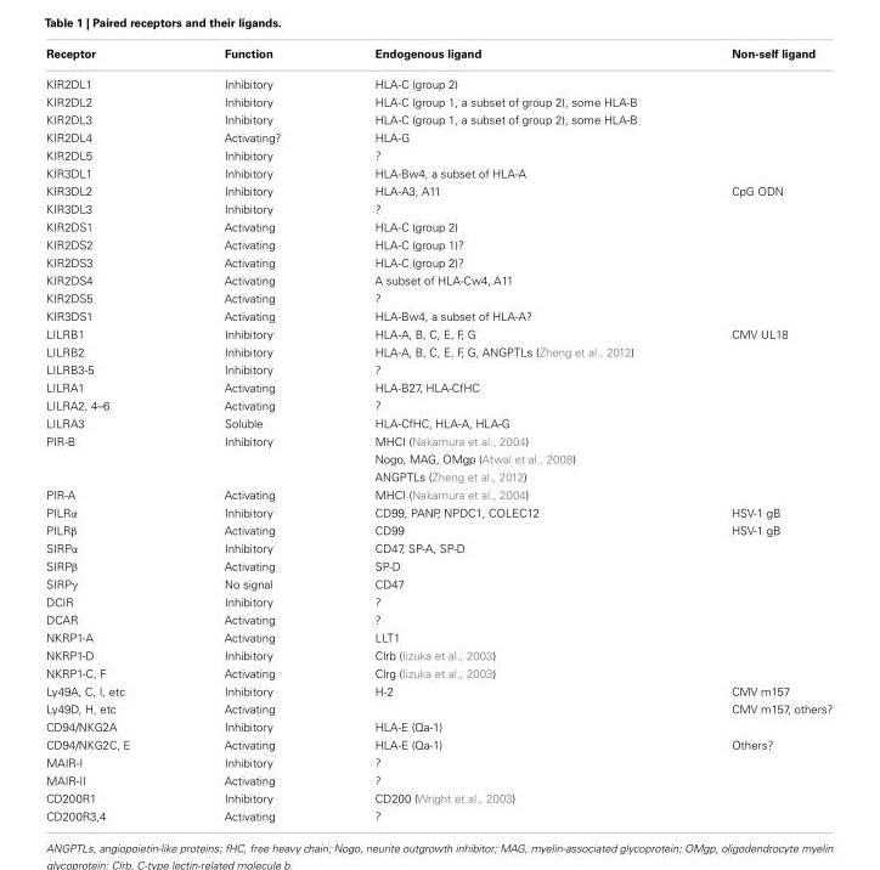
<table><thead><tr><td>Receptor</td><td>Function</td><td>Endogenous ligand</td><td>Non-self ligand</td></tr></thead><tbody><tr><td>KIR2DL1</td><td>Inhibitory</td><td>HLA-C (group 2)</td><td></td></tr><tr><td>KIR2DL2</td><td>Inhibitory</td><td>HLA-C (group 1, a subset of group 2), some HLA-B</td><td></td></tr><tr><td>KIR2DL3</td><td>Inhibitory</td><td>HLA-C (group 1, a subset of group 2), some HLA-B</td><td></td></tr><tr><td>KIR2DL4</td><td>Activating?</td><td>HLA-G</td><td></td></tr><tr><td>KIR2DL5</td><td>Inhibitory</td><td>?</td><td></td></tr><tr><td>KIR3DL1</td><td>Inhibitory</td><td>HLA-Bw4, a subset of HLA-A</td><td></td></tr><tr><td>KIR3DL2</td><td>Inhibitory</td><td>HLA-A3, A11</td><td>CpG ODN</td></tr><tr><td>KIR3DL3</td><td>Inhibitory</td><td>?</td><td></td></tr><tr><td>KIR2DS1</td><td>Activating</td><td>HLA-C (group 2)</td><td></td></tr><tr><td>KIR2DS2</td><td>Activating</td><td>HLA-C (group 1)?</td><td></td></tr><tr><td>KIR2DS3</td><td>Activating</td><td>HLA-C (group 2)?</td><td></td></tr><tr><td>KIR2DS4</td><td>Activating</td><td>A subset of HLA-Cw4, A11</td><td></td></tr><tr><td>KIR2DS5</td><td>Activating</td><td>?</td><td></td></tr><tr><td>KIR3DS1</td><td>Activating</td><td>HLA-Bw4, a subset of HLA-A?</td><td></td></tr><tr><td>LILRB1</td><td>Inhibitory</td><td>HLA-A, B, C, E, F, G</td><td>CMV UL18</td></tr><tr><td>LILRB2</td><td>Inhibitory</td><td>HLA-A, B, C, E, F, G, ANGPTLs (Zheng et al., 2012)</td><td></td></tr><tr><td>LILRB3-5</td><td>Inhibitory</td><td>?</td><td></td></tr><tr><td>LILRA1</td><td>Activating</td><td>HLA-B27, HLA-CfHC</td><td></td></tr><tr><td>LILRA2, 4–6</td><td>Activating</td><td>?</td><td></td></tr><tr><td>LILRA3</td><td>Soluble</td><td>HLA-CfHC, HLA-A, HLA-G</td><td></td></tr><tr><td rowspan="3">PIR-B</td><td>Inhibitory</td><td>MHCI (Nakamura et al., 2004)</td><td></td></tr><tr><td></td><td>Nogo, MAG, OMgp (Atwal et al., 2008)</td><td></td></tr><tr><td></td><td>ANGPTLs (Zheng et al., 2012)</td><td></td></tr><tr><td>PIR-A</td><td>Activating</td><td>MHCI (Nakamura et al., 2004)</td><td></td></tr><tr><td>PILRα</td><td>Inhibitory</td><td>CD99, PANP, NPDC1, COLEC12</td><td>HSV-1 gB</td></tr><tr><td>PILRβ</td><td>Activating</td><td>CD99</td><td>HSV-1 gB</td></tr><tr><td>SIRPα</td><td>Inhibitory</td><td>CD47, SP-A, SP-D</td><td></td></tr><tr><td>SIRPβ</td><td>Activating</td><td>SP-D</td><td></td></tr><tr><td>SIRPγ</td><td>No signal</td><td>CD47</td><td></td></tr><tr><td>DCIR</td><td>Inhibitory</td><td>?</td><td></td></tr><tr><td>DCAR</td><td>Activating</td><td>?</td><td></td></tr><tr><td>NKRP1-A</td><td>Activating</td><td>LLT1</td><td></td></tr><tr><td>NKRP1-D</td><td>Inhibitory</td><td>Clrb (Iizuka et al., 2003)</td><td></td></tr><tr><td>NKRP1-C, F</td><td>Activating</td><td>Clrg (Iizuka et al., 2003)</td><td></td></tr><tr><td>Ly49A, C, I, etc</td><td>Inhibitory</td><td>H-2</td><td>CMV m157</td></tr><tr><td>Ly49D, H, etc</td><td>Activating</td><td></td><td>CMV m157, others?</td></tr><tr><td>CD94/NKG2A</td><td>Inhibitory</td><td>HLA-E (Qa-1)</td><td></td></tr><tr><td>CD94/NKG2C, E</td><td>Activating</td><td>HLA-E (Qa-1)</td><td>Others?</td></tr><tr><td>MAIR-I</td><td>Inhibitory</td><td>?</td><td></td></tr><tr><td>MAIR-II</td><td>Activating</td><td>?</td><td></td></tr><tr><td>CD200R1</td><td>Inhibitory</td><td>CD200 (Wright et al., 2003)</td><td></td></tr><tr><td>CD200R3,4</td><td>Activating</td><td>?</td><td></td></tr></tbody></table>